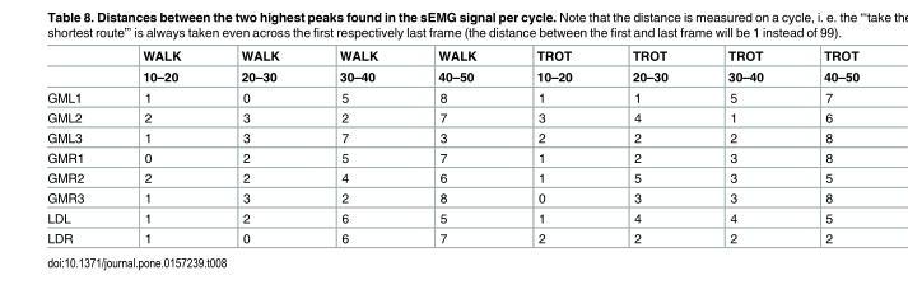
<table><thead><tr><td rowspan="2"></td><td rowspan="2">WALK 10–20</td><td rowspan="2">WALK 20–30</td><td rowspan="2">WALK 30–40</td><td rowspan="2">WALK 40–50</td><td rowspan="2">TROT 10–20</td><td rowspan="2">TROT 20–30</td><td rowspan="2">TROT 30–40</td><td rowspan="2">TROT 40–50</td></tr><tr></tr></thead><tbody><tr><td>GML1</td><td>1</td><td>0</td><td>5</td><td>8</td><td>1</td><td>1</td><td>5</td><td>7</td></tr><tr><td>GML2</td><td>2</td><td>3</td><td>2</td><td>7</td><td>3</td><td>4</td><td>1</td><td>6</td></tr><tr><td>GML3</td><td>1</td><td>3</td><td>7</td><td>3</td><td>2</td><td>2</td><td>2</td><td>8</td></tr><tr><td>GMR1</td><td>0</td><td>2</td><td>5</td><td>7</td><td>1</td><td>2</td><td>3</td><td>8</td></tr><tr><td>GMR2</td><td>2</td><td>2</td><td>4</td><td>6</td><td>1</td><td>5</td><td>3</td><td>5</td></tr><tr><td>GMR3</td><td>1</td><td>3</td><td>2</td><td>8</td><td>0</td><td>3</td><td>3</td><td>8</td></tr><tr><td>LDL</td><td>1</td><td>2</td><td>6</td><td>5</td><td>1</td><td>4</td><td>4</td><td>5</td></tr><tr><td>LDR</td><td>1</td><td>0</td><td>6</td><td>7</td><td>2</td><td>2</td><td>2</td><td>2</td></tr></tbody></table>